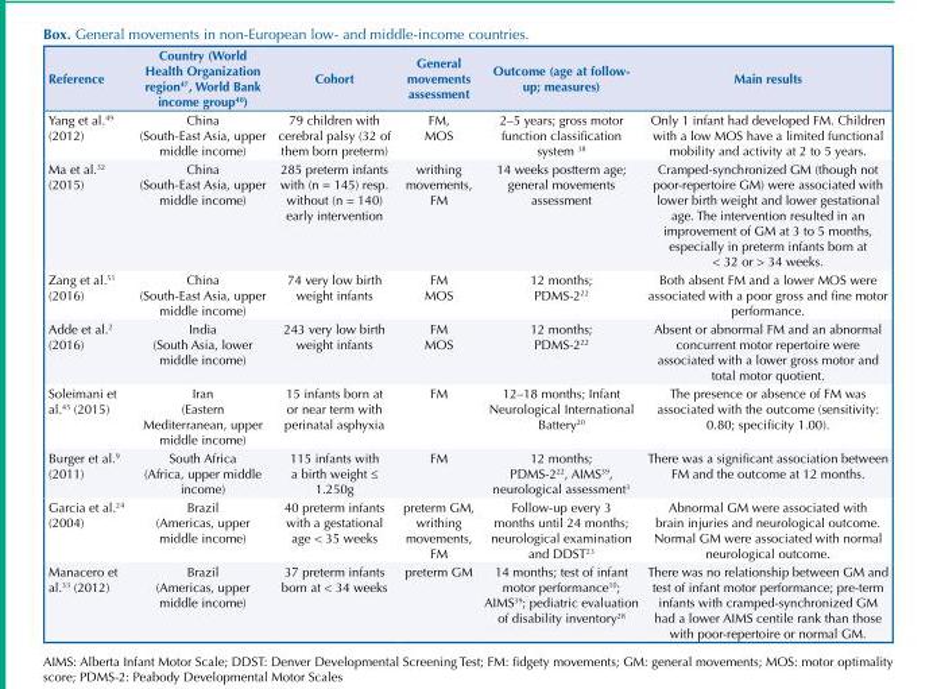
<table><thead><tr><td>Reference</td><td>Country (World Health Organization region<sup>47</sup>, World Bank income group<sup>48</sup>)</td><td>Cohort</td><td>General movements assessment</td><td>Outcome (age at follow- up; measures)</td><td>Main results</td></tr></thead><tbody><tr><td>Yang et al.<sup>49</sup> (2012)</td><td>China (South-East Asia, upper middle income)</td><td>79 children with cerebral palsy (32 of them born preterm)</td><td>FM, MOS</td><td>2–5 years; gross motor function classification system <sup>38</sup></td><td>Only 1 infant had developed FM. Children with a low MOS have a limited functional mobility and activity at 2 to 5 years.</td></tr><tr><td>Ma et al.<sup>32</sup> (2015)</td><td>China (South-East Asia, upper middle income)</td><td>285 preterm infants with (n = 145) resp. without (n = 140) early intervention</td><td>writhing movements, FM</td><td>14 weeks postterm age; general movements assessment</td><td>Cramped-synchronized GM (though not poor-repertoire GM) were associated with lower birth weight and lower gestational age. The intervention resulted in an improvement of GM at 3 to 5 months, especially in preterm infants born at &lt; 32 or &gt; 34 weeks.</td></tr><tr><td>Zang et al.<sup>51</sup> (2016)</td><td>China (South-East Asia, upper middle income)</td><td>74 very low birth weight infants</td><td>FM MOS</td><td>12 months; PDMS-2<sup>22</sup></td><td>Both absent FM and a lower MOS were associated with a poor gross and fine motor performance.</td></tr><tr><td>Adde et al.<sup>2</sup> (2016)</td><td>India (South Asia, lower middle income)</td><td>243 very low birth weight infants</td><td>FM MOS</td><td>12 months; PDMS-2<sup>22</sup></td><td>Absent or abnormal FM and an abnormal concurrent motor repertoire were associated with a lower gross motor and total motor quotient.</td></tr><tr><td>Soleimani et al.<sup>45</sup> (2015)</td><td>Iran (Eastern Mediterranean, upper middle income)</td><td>15 infants born at or near term with perinatal asphyxia</td><td>FM</td><td>12–18 months; Infant Neurological International Battery<sup>20</sup></td><td>The presence or absence of FM was associated with the outcome (sensitivity: 0.80; specificity 1.00).</td></tr><tr><td>Burger et al.<sup>9</sup> (2011)</td><td>South Africa (Africa, upper middle income)</td><td>115 infants with a birth weight ≤ 1.250g</td><td>FM</td><td>12 months; PDMS-2<sup>22</sup>, AIMS<sup>39</sup>, neurological assessment<sup>3</sup></td><td>There was a significant association between FM and the outcome at 12 months.</td></tr><tr><td>Garcia et al.<sup>24</sup> (2004)</td><td>Brazil (Americas, upper middle income)</td><td>40 preterm infants with a gestational age &lt; 35 weeks</td><td>preterm GM, writhing movements, FM</td><td>Follow-up every 3 months until 24 months; neurological examination and DDST<sup>23</sup></td><td>Abnormal GM were associated with brain injuries and neurological outcome. Normal GM were associated with normal neurological outcome.</td></tr><tr><td>Manacero et al.<sup>33</sup> (2012)</td><td>Brazil (Americas, upper middle income)</td><td>37 preterm infants born at &lt; 34 weeks</td><td>preterm GM</td><td>14 months; test of infant motor performance<sup>10</sup>; AIMS<sup>39</sup>; pediatric evaluation of disability inventory<sup>28</sup></td><td>There was no relationship between GM and test of infant motor performance; pre-term infants with cramped-synchronized GM had a lower AIMS centile rank than those with poor-repertoire or normal GM.</td></tr></tbody></table>